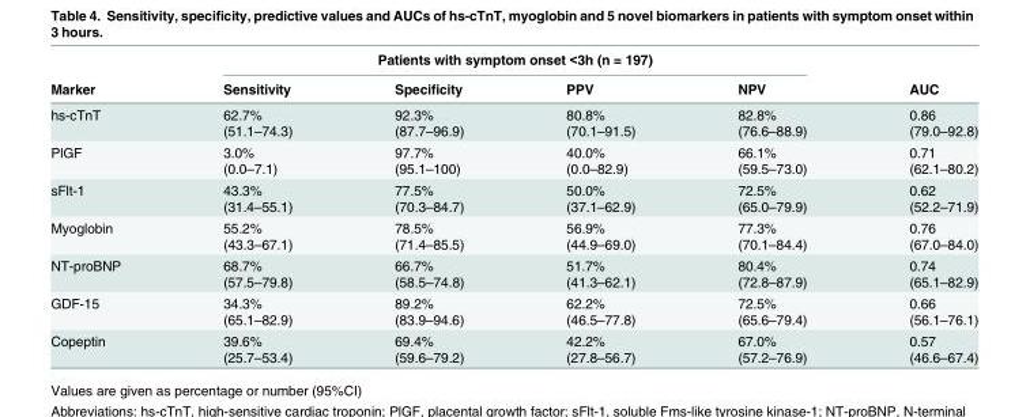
<table><thead><tr><td rowspan="2">Marker</td><td colspan="4">Patients with symptom onset &lt;3h (n = 197)</td><td rowspan="2">AUC</td></tr><tr><td>Sensitivity</td><td>Specificity</td><td>PPV</td><td>NPV</td></tr></thead><tbody><tr><td>hs-cTnT</td><td>62.7% (51.1–74.3)</td><td>92.3% (87.7–96.9)</td><td>80.8% (70.1–91.5)</td><td>82.8% (76.6–88.9)</td><td>0.86 (79.0–92.8)</td></tr><tr><td>PlGF</td><td>3.0% (0.0–7.1)</td><td>97.7% (95.1–100)</td><td>40.0% (0.0–82.9)</td><td>66.1% (59.5–73.0)</td><td>0.71 (62.1–80.2)</td></tr><tr><td>sFlt-1</td><td>43.3% (31.4–55.1)</td><td>77.5% (70.3–84.7)</td><td>50.0% (37.1–62.9)</td><td>72.5% (65.0–79.9)</td><td>0.62 (52.2–71.9)</td></tr><tr><td>Myoglobin</td><td>55.2% (43.3–67.1)</td><td>78.5% (71.4–85.5)</td><td>56.9% (44.9–69.0)</td><td>77.3% (70.1–84.4)</td><td>0.76 (67.0–84.0)</td></tr><tr><td>NT-proBNP</td><td>68.7% (57.5–79.8)</td><td>66.7% (58.5–74.8)</td><td>51.7% (41.3–62.1)</td><td>80.4% (72.8–87.9)</td><td>0.74 (65.1–82.9)</td></tr><tr><td>GDF-15</td><td>34.3% (65.1–82.9)</td><td>89.2% (83.9–94.6)</td><td>62.2% (46.5–77.8)</td><td>72.5% (65.6–79.4)</td><td>0.66 (56.1–76.1)</td></tr><tr><td>Copeptin</td><td>39.6% (25.7–53.4)</td><td>69.4% (59.6–79.2)</td><td>42.2% (27.8–56.7)</td><td>67.0% (57.2–76.9)</td><td>0.57 (46.6–67.4)</td></tr></tbody></table>